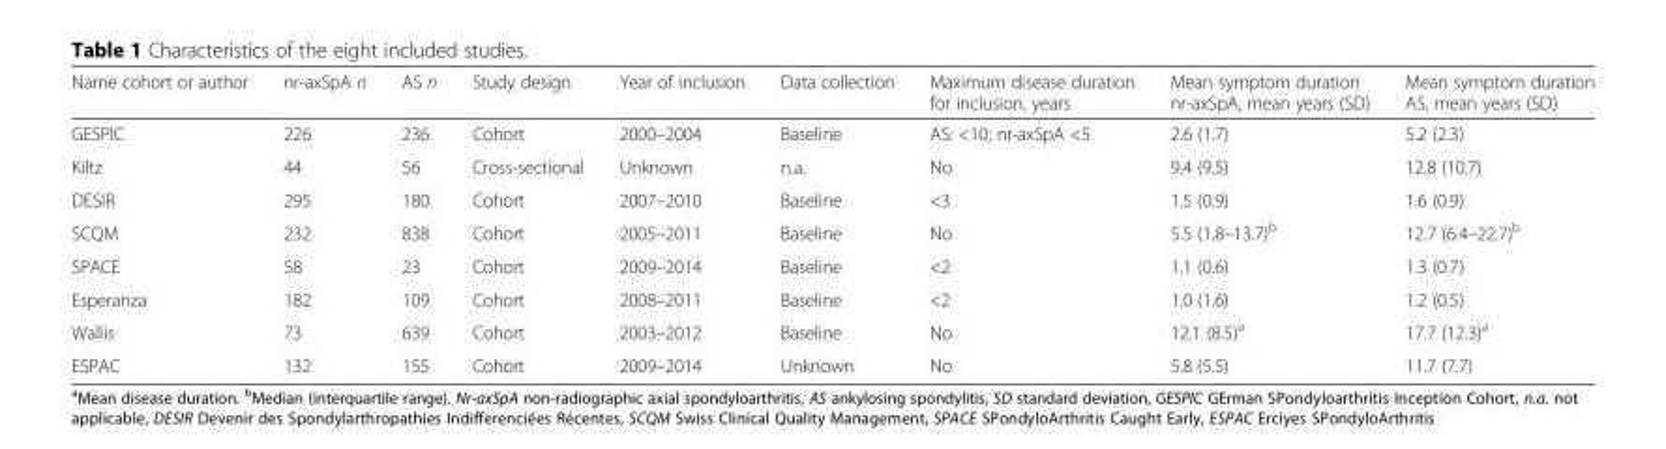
<table><thead><tr><td>Name cohort or author</td><td>nr-axSpA n</td><td>AS n</td><td>Study design</td><td>Year of inclusion</td><td>Data collection</td><td>Maximum disease duration for inclusion, years</td><td>Mean symptom duration nr-axSpA, mean years (SD)</td><td>Mean symptom duration AS, mean years (SD)</td></tr></thead><tbody><tr><td>GESPIC</td><td>226</td><td>236</td><td>Cohort</td><td>2000–2004</td><td>Baseline</td><td>AS: &lt;10; nr-axSpA &lt;5</td><td>2.6 (1.7)</td><td>5.2 (2.3)</td></tr><tr><td>Kiltz</td><td>44</td><td>56</td><td>Cross-sectional</td><td>Unknown</td><td>n.a.</td><td>No</td><td>9.4 (9.5)</td><td>12.8 (10.7)</td></tr><tr><td>DESIR</td><td>295</td><td>180</td><td>Cohort</td><td>2007–2010</td><td>Baseline</td><td>&lt;3</td><td>1.5 (0.9)</td><td>1.6 (0.9)</td></tr><tr><td>SCQM</td><td>232</td><td>838</td><td>Cohort</td><td>2005–2011</td><td>Baseline</td><td>No</td><td>5.5 (1.8–13.7)<sup>b</sup></td><td>12.7 (6.4–22.7)<sup>b</sup></td></tr><tr><td>SPACE</td><td>58</td><td>23</td><td>Cohort</td><td>2009–2014</td><td>Baseline</td><td>&lt;2</td><td>1.1 (0.6)</td><td>1.3 (0.7)</td></tr><tr><td>Esperanza</td><td>182</td><td>109</td><td>Cohort</td><td>2008–2011</td><td>Baseline</td><td>&lt;2</td><td>1.0 (1.6)</td><td>1.2 (0.5)</td></tr><tr><td>Wallis</td><td>73</td><td>639</td><td>Cohort</td><td>2003–2012</td><td>Baseline</td><td>No</td><td>12.1 (8.5)<sup>a</sup></td><td>17.7 (12.3)<sup>a</sup></td></tr><tr><td>ESPAC</td><td>132</td><td>155</td><td>Cohort</td><td>2009–2014</td><td>Unknown</td><td>No</td><td>5.8 (5.5)</td><td>11.7 (7.7)</td></tr></tbody></table>